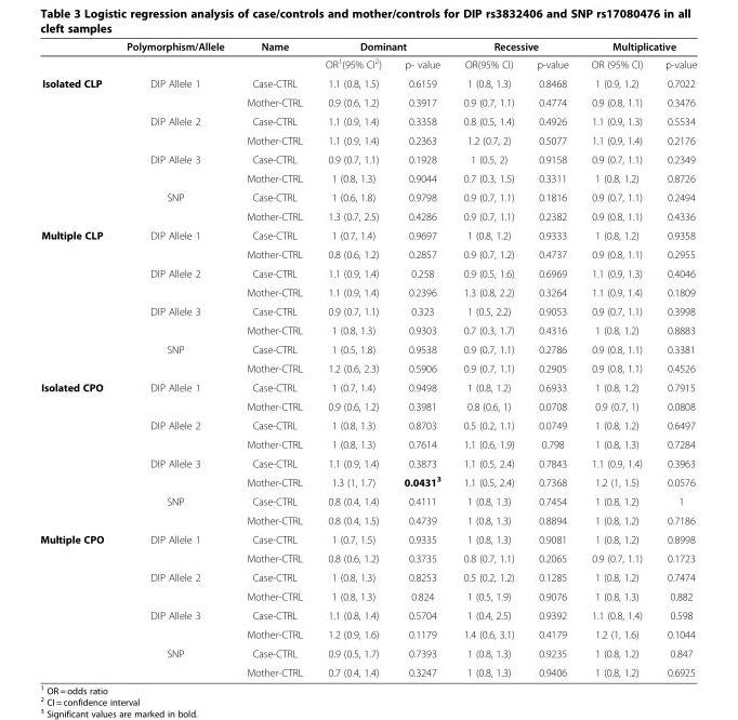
<table><thead><tr><td rowspan="2"></td><td rowspan="2">Polymorphism/Allele</td><td rowspan="2">Name</td><td colspan="2">Dominant</td><td colspan="2">Recessive</td><td colspan="2">Multiplicative</td></tr><tr><td>OR<sup>1</sup>(95% CI<sup>2</sup>)</td><td>p- value</td><td>OR(95% CI)</td><td>p-value</td><td>OR (95% CI)</td><td>p-value</td></tr></thead><tbody><tr><td rowspan="8">Isolated CLP</td><td>DIP Allele 1</td><td>Case-CTRL</td><td>1.1 (0.8, 1.5)</td><td>0.6159</td><td>1 (0.8, 1.3)</td><td>0.8468</td><td>1 (0.9, 1.2)</td><td>0.7022</td></tr><tr><td></td><td>Mother-CTRL</td><td>0.9 (0.6, 1.2)</td><td>0.3917</td><td>0.9 (0.7, 1.1)</td><td>0.4774</td><td>0.9 (0.8, 1.1)</td><td>0.3476</td></tr><tr><td>DIP Allele 2</td><td>Case-CTRL</td><td>1.1 (0.9, 1.4)</td><td>0.3358</td><td>0.8 (0.5, 1.4)</td><td>0.4926</td><td>1.1 (0.9, 1.3)</td><td>0.5534</td></tr><tr><td></td><td>Mother-CTRL</td><td>1.1 (0.9, 1.4)</td><td>0.2363</td><td>1.2 (0.7, 2)</td><td>0.5077</td><td>1.1 (0.9, 1.4)</td><td>0.2176</td></tr><tr><td>DIP Allele 3</td><td>Case-CTRL</td><td>0.9 (0.7, 1.1)</td><td>0.1928</td><td>1 (0.5, 2)</td><td>0.9158</td><td>0.9 (0.7, 1.1)</td><td>0.2349</td></tr><tr><td></td><td>Mother-CTRL</td><td>1 (0.8, 1.3)</td><td>0.9044</td><td>0.7 (0.3, 1.5)</td><td>0.3311</td><td>1 (0.8, 1.2)</td><td>0.8726</td></tr><tr><td>SNP</td><td>Case-CTRL</td><td>1 (0.6, 1.8)</td><td>0.9798</td><td>0.9 (0.7, 1.1)</td><td>0.1816</td><td>0.9 (0.7, 1.1)</td><td>0.2494</td></tr><tr><td></td><td>Mother-CTRL</td><td>1.3 (0.7, 2.5)</td><td>0.4286</td><td>0.9 (0.7, 1.1)</td><td>0.2382</td><td>0.9 (0.8, 1.1)</td><td>0.4336</td></tr><tr><td rowspan="8">Multiple CLP</td><td>DIP Allele 1</td><td>Case-CTRL</td><td>1 (0.7, 1.4)</td><td>0.9697</td><td>1 (0.8, 1.2)</td><td>0.9333</td><td>1 (0.8, 1.2)</td><td>0.9358</td></tr><tr><td></td><td>Mother-CTRL</td><td>0.8 (0.6, 1.2)</td><td>0.2857</td><td>0.9 (0.7, 1.2)</td><td>0.4737</td><td>0.9 (0.8, 1.1)</td><td>0.2955</td></tr><tr><td>DIP Allele 2</td><td>Case-CTRL</td><td>1.1 (0.9, 1.4)</td><td>0.258</td><td>0.9 (0.5, 1.6)</td><td>0.6969</td><td>1.1 (0.9, 1.3)</td><td>0.4046</td></tr><tr><td></td><td>Mother-CTRL</td><td>1.1 (0.9, 1.4)</td><td>0.2396</td><td>1.3 (0.8, 2.2)</td><td>0.3264</td><td>1.1 (0.9, 1.4)</td><td>0.1809</td></tr><tr><td>DIP Allele 3</td><td>Case-CTRL</td><td>0.9 (0.7, 1.1)</td><td>0.323</td><td>1 (0.5, 2.2)</td><td>0.9053</td><td>0.9 (0.7, 1.1)</td><td>0.3998</td></tr><tr><td></td><td>Mother-CTRL</td><td>1 (0.8, 1.3)</td><td>0.9303</td><td>0.7 (0.3, 1.7)</td><td>0.4316</td><td>1 (0.8, 1.2)</td><td>0.8883</td></tr><tr><td>SNP</td><td>Case-CTRL</td><td>1 (0.5, 1.8)</td><td>0.9538</td><td>0.9 (0.7, 1.1)</td><td>0.2786</td><td>0.9 (0.8, 1.1)</td><td>0.3381</td></tr><tr><td></td><td>Mother-CTRL</td><td>1.2 (0.6, 2.3)</td><td>0.5906</td><td>0.9 (0.7, 1.1)</td><td>0.2905</td><td>0.9 (0.8, 1.1)</td><td>0.4526</td></tr><tr><td rowspan="8">Isolated CPO</td><td>DIP Allele 1</td><td>Case-CTRL</td><td>1 (0.7, 1.4)</td><td>0.9498</td><td>1 (0.8, 1.2)</td><td>0.6933</td><td>1 (0.8, 1.2)</td><td>0.7915</td></tr><tr><td></td><td>Mother-CTRL</td><td>0.9 (0.6, 1.2)</td><td>0.3981</td><td>0.8 (0.6, 1)</td><td>0.0708</td><td>0.9 (0.7, 1)</td><td>0.0808</td></tr><tr><td>DIP Allele 2</td><td>Case-CTRL</td><td>1 (0.8, 1.3)</td><td>0.8703</td><td>0.5 (0.2, 1.1)</td><td>0.0749</td><td>1 (0.8, 1.2)</td><td>0.6497</td></tr><tr><td></td><td>Mother-CTRL</td><td>1 (0.8, 1.3)</td><td>0.7614</td><td>1.1 (0.6, 1.9)</td><td>0.798</td><td>1 (0.8, 1.3)</td><td>0.7284</td></tr><tr><td>DIP Allele 3</td><td>Case-CTRL</td><td>1.1 (0.9, 1.4)</td><td>0.3873</td><td>1.1 (0.5, 2.4)</td><td>0.7843</td><td>1.1 (0.9, 1.4)</td><td>0.3963</td></tr><tr><td></td><td>Mother-CTRL</td><td>1.3 (1, 1.7)</td><td>0.0431<sup>3</sup></td><td>1.1 (0.5, 2.4)</td><td>0.7368</td><td>1.2 (1, 1.5)</td><td>0.0576</td></tr><tr><td>SNP</td><td>Case-CTRL</td><td>0.8 (0.4, 1.4)</td><td>0.4111</td><td>1 (0.8, 1.3)</td><td>0.7454</td><td>1 (0.8, 1.2)</td><td>1</td></tr><tr><td></td><td>Mother-CTRL</td><td>0.8 (0.4, 1.5)</td><td>0.4739</td><td>1 (0.8, 1.3)</td><td>0.8894</td><td>1 (0.8, 1.2)</td><td>0.7186</td></tr><tr><td rowspan="8">Multiple CPO</td><td>DIP Allele 1</td><td>Case-CTRL</td><td>1 (0.7, 1.5)</td><td>0.9335</td><td>1 (0.8, 1.3)</td><td>0.9081</td><td>1 (0.8, 1.2)</td><td>0.8998</td></tr><tr><td></td><td>Mother-CTRL</td><td>0.8 (0.6, 1.2)</td><td>0.3735</td><td>0.8 (0.7, 1.1)</td><td>0.2065</td><td>0.9 (0.7, 1.1)</td><td>0.1723</td></tr><tr><td>DIP Allele 2</td><td>Case-CTRL</td><td>1 (0.8, 1.3)</td><td>0.8253</td><td>0.5 (0.2, 1.2)</td><td>0.1285</td><td>1 (0.8, 1.2)</td><td>0.7474</td></tr><tr><td></td><td>Mother-CTRL</td><td>1 (0.8, 1.3)</td><td>0.824</td><td>1 (0.5, 1.9)</td><td>0.9076</td><td>1 (0.8, 1.3)</td><td>0.882</td></tr><tr><td>DIP Allele 3</td><td>Case-CTRL</td><td>1.1 (0.8, 1.4)</td><td>0.5704</td><td>1 (0.4, 2.5)</td><td>0.9392</td><td>1.1 (0.8, 1.4)</td><td>0.598</td></tr><tr><td></td><td>Mother-CTRL</td><td>1.2 (0.9, 1.6)</td><td>0.1179</td><td>1.4 (0.6, 3.1)</td><td>0.4179</td><td>1.2 (1, 1.6)</td><td>0.1044</td></tr><tr><td>SNP</td><td>Case-CTRL</td><td>0.9 (0.5, 1.7)</td><td>0.7393</td><td>1 (0.8, 1.3)</td><td>0.9235</td><td>1 (0.8, 1.2)</td><td>0.847</td></tr><tr><td></td><td>Mother-CTRL</td><td>0.7 (0.4, 1.4)</td><td>0.3247</td><td>1 (0.8, 1.3)</td><td>0.9406</td><td>1 (0.8, 1.2)</td><td>0.6925</td></tr></tbody></table>